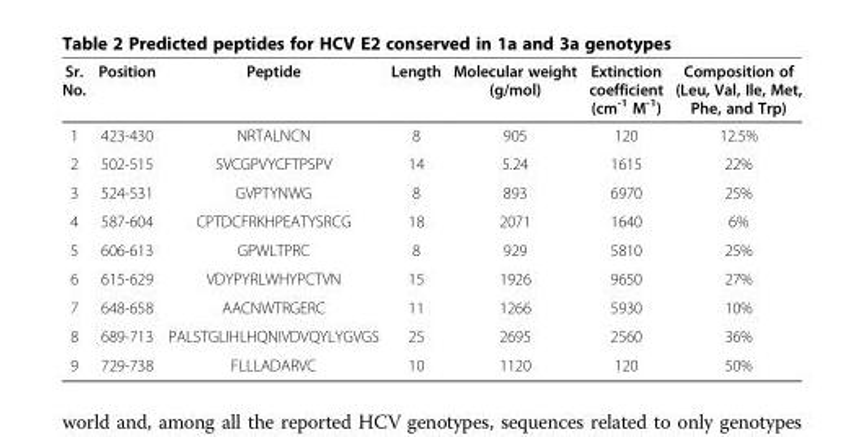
<table><thead><tr><td>Sr. No.</td><td>Position</td><td>Peptide</td><td>Length</td><td>Molecular weight (g/mol)</td><td>Extinction coefficient (cm<sup>-1</sup> M<sup>-1</sup>)</td><td>Composition of (Leu, Val, Ile, Met, Phe, and Trp)</td></tr></thead><tbody><tr><td>1</td><td>423-430</td><td>NRTALNCN</td><td>8</td><td>905</td><td>120</td><td>12.5%</td></tr><tr><td>2</td><td>502-515</td><td>SVCGPVYCFTPSPV</td><td>14</td><td>5.24</td><td>1615</td><td>22%</td></tr><tr><td>3</td><td>524-531</td><td>GVPTYNWG</td><td>8</td><td>893</td><td>6970</td><td>25%</td></tr><tr><td>4</td><td>587-604</td><td>CPTDCFRKHPEATYSRCG</td><td>18</td><td>2071</td><td>1640</td><td>6%</td></tr><tr><td>5</td><td>606-613</td><td>GPWLTPRC</td><td>8</td><td>929</td><td>5810</td><td>25%</td></tr><tr><td>6</td><td>615-629</td><td>VDYPYRLWHYPCTVN</td><td>15</td><td>1926</td><td>9650</td><td>27%</td></tr><tr><td>7</td><td>648-658</td><td>AACNWTRGERC</td><td>11</td><td>1266</td><td>5930</td><td>10%</td></tr><tr><td>8</td><td>689-713</td><td>PALSTGLIHLHQNIVDVQYLYGVGS</td><td>25</td><td>2695</td><td>2560</td><td>36%</td></tr><tr><td>9</td><td>729-738</td><td>FLLLADARVC</td><td>10</td><td>1120</td><td>120</td><td>50%</td></tr></tbody></table>